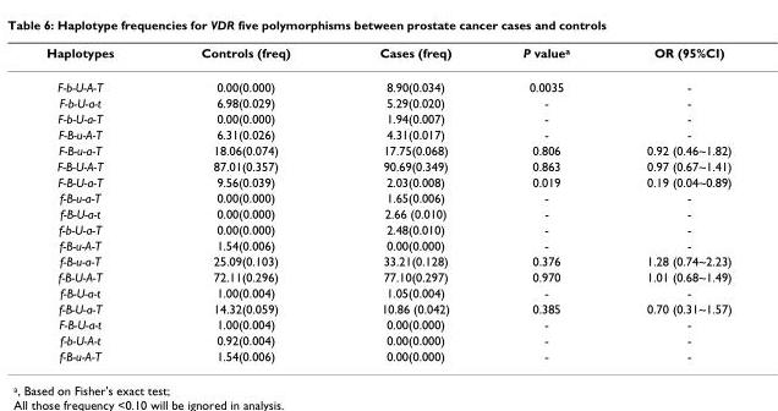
<table><thead><tr><td>Haplotypes</td><td>Controls (freq)</td><td>Cases (freq)</td><td>P value<sup>a</sup></td><td>OR (95%CI)</td></tr></thead><tbody><tr><td>F-b-U-A-T</td><td>0.00(0.000)</td><td>8.90(0.034)</td><td>0.0035</td><td>-</td></tr><tr><td>F-b-U-a-t</td><td>6.98(0.029)</td><td>5.29(0.020)</td><td>-</td><td>-</td></tr><tr><td>F-b-U-a-T</td><td>0.00(0.000)</td><td>1.94(0.007)</td><td>-</td><td>-</td></tr><tr><td>F-B-u-A-T</td><td>6.31(0.026)</td><td>4.31(0.017)</td><td>-</td><td>-</td></tr><tr><td>F-B-u-a-T</td><td>18.06(0.074)</td><td>17.75(0.068)</td><td>0.806</td><td>0.92 (0.46~1.82)</td></tr><tr><td>F-B-U-A-T</td><td>87.01(0.357)</td><td>90.69(0.349)</td><td>0.863</td><td>0.97 (0.67~1.41)</td></tr><tr><td>F-B-U-a-T</td><td>9.56(0.039)</td><td>2.03(0.008)</td><td>0.019</td><td>0.19 (0.04~0.89)</td></tr><tr><td>f-B-u-a-T</td><td>0.00(0.000)</td><td>1.65(0.006)</td><td>-</td><td>-</td></tr><tr><td>f-B-U-a-t</td><td>0.00(0.000)</td><td>2.66 (0.010)</td><td>-</td><td>-</td></tr><tr><td>f-b-U-a-T</td><td>0.00(0.000)</td><td>2.48(0.010)</td><td>-</td><td>-</td></tr><tr><td>f-B-u-A-T</td><td>1.54(0.006)</td><td>0.00(0.000)</td><td>-</td><td>-</td></tr><tr><td>f-B-u-a-T</td><td>25.09(0.103)</td><td>33.21(0.128)</td><td>0.376</td><td>1.28 (0.74~2.23)</td></tr><tr><td>f-B-U-A-T</td><td>72.11(0.296)</td><td>77.10(0.297)</td><td>0.970</td><td>1.01 (0.68~1.49)</td></tr><tr><td>f-B-U-a-t</td><td>1.00(0.004)</td><td>1.05(0.004)</td><td>-</td><td>-</td></tr><tr><td>f-B-U-a-T</td><td>14.32(0.059)</td><td>10.86 (0.042)</td><td>0.385</td><td>0.70 (0.31~1.57)</td></tr><tr><td>F-B-U-a-t</td><td>1.00(0.004)</td><td>0.00(0.000)</td><td>-</td><td>-</td></tr><tr><td>f-b-U-A-t</td><td>0.92(0.004)</td><td>0.00(0.000)</td><td>-</td><td>-</td></tr><tr><td>f-B-u-A-T</td><td>1.54(0.006)</td><td>0.00(0.000)</td><td>-</td><td>-</td></tr></tbody></table>